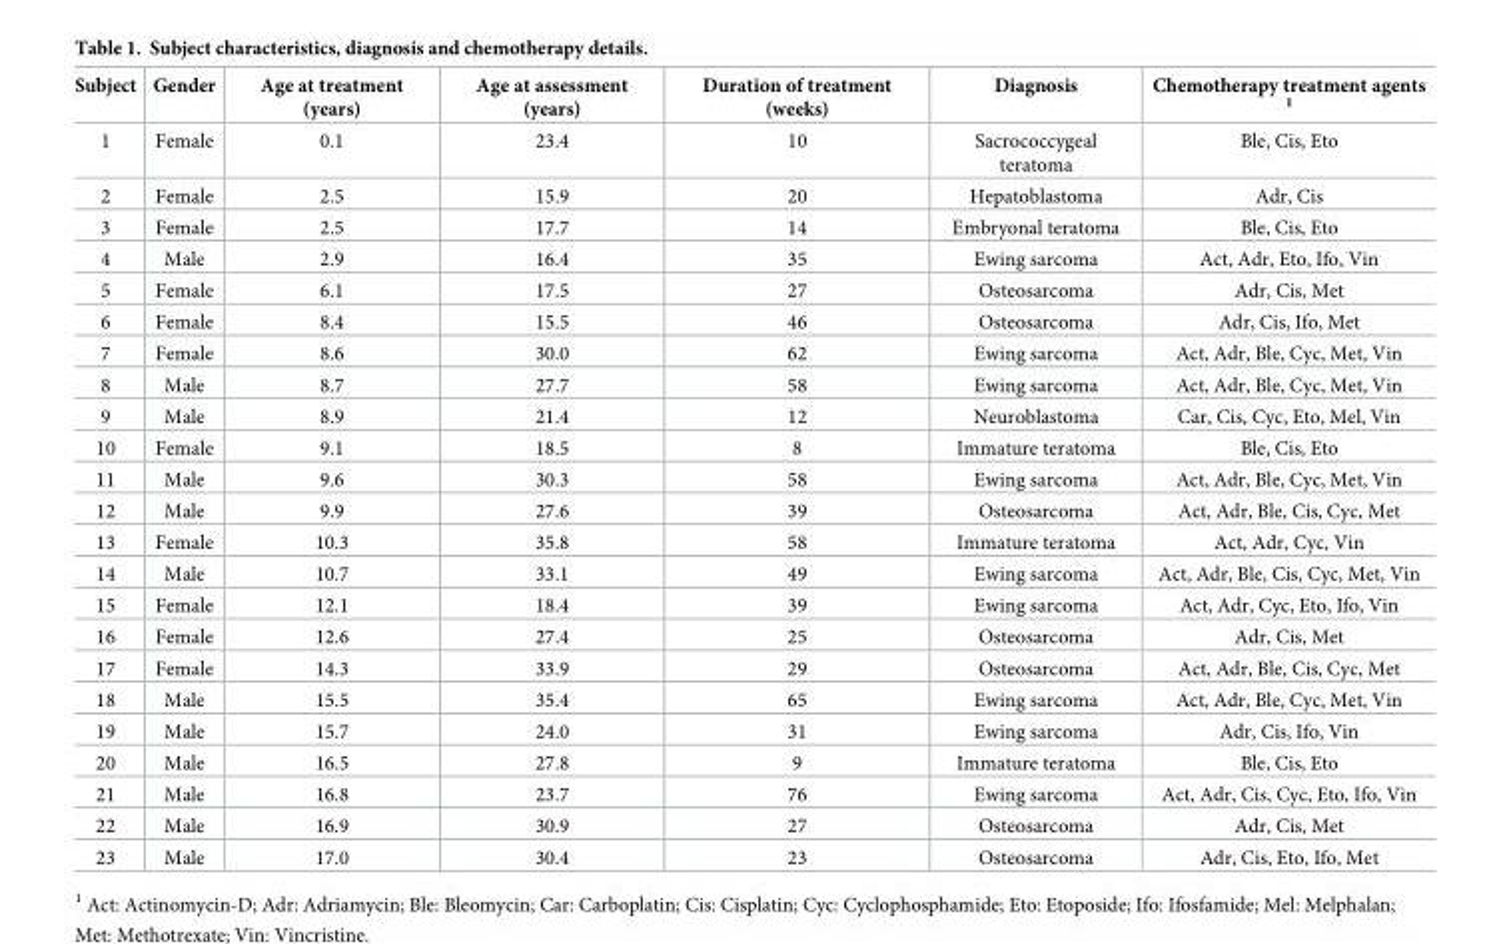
<table><thead><tr><td>Subject</td><td>Gender</td><td>Age at treatment (years)</td><td>Age at assessment (years)</td><td>Duration of treatment (weeks)</td><td>Diagnosis</td><td>Chemotherapy treatment agents <sup>1</sup></td></tr></thead><tbody><tr><td>1</td><td>Female</td><td>0.1</td><td>23.4</td><td>10</td><td>Sacrococcygeal teratoma</td><td>Ble, Cis, Eto</td></tr><tr><td>2</td><td>Female</td><td>2.5</td><td>15.9</td><td>20</td><td>Hepatoblastoma</td><td>Adr, Cis</td></tr><tr><td>3</td><td>Female</td><td>2.5</td><td>17.7</td><td>14</td><td>Embryonal teratoma</td><td>Ble, Cis, Eto</td></tr><tr><td>4</td><td>Male</td><td>2.9</td><td>16.4</td><td>35</td><td>Ewing sarcoma</td><td>Act, Adr, Eto, Ifo, Vin</td></tr><tr><td>5</td><td>Female</td><td>6.1</td><td>17.5</td><td>27</td><td>Osteosarcoma</td><td>Adr, Cis, Met</td></tr><tr><td>6</td><td>Female</td><td>8.4</td><td>15.5</td><td>46</td><td>Osteosarcoma</td><td>Adr, Cis, Ifo, Met</td></tr><tr><td>7</td><td>Female</td><td>8.6</td><td>30.0</td><td>62</td><td>Ewing sarcoma</td><td>Act, Adr, Ble, Cyc, Met, Vin</td></tr><tr><td>8</td><td>Male</td><td>8.7</td><td>27.7</td><td>58</td><td>Ewing sarcoma</td><td>Act, Adr, Ble, Cyc, Met, Vin</td></tr><tr><td>9</td><td>Male</td><td>8.9</td><td>21.4</td><td>12</td><td>Neuroblastoma</td><td>Car, Cis, Cyc, Eto, Mel, Vin</td></tr><tr><td>10</td><td>Female</td><td>9.1</td><td>18.5</td><td>8</td><td>Immature teratoma</td><td>Ble, Cis, Eto</td></tr><tr><td>11</td><td>Male</td><td>9.6</td><td>30.3</td><td>58</td><td>Ewing sarcoma</td><td>Act, Adr, Ble, Cyc, Met, Vin</td></tr><tr><td>12</td><td>Male</td><td>9.9</td><td>27.6</td><td>39</td><td>Osteosarcoma</td><td>Act, Adr, Ble, Cis, Cyc, Met</td></tr><tr><td>13</td><td>Female</td><td>10.3</td><td>35.8</td><td>58</td><td>Immature teratoma</td><td>Act, Adr, Cyc, Vin</td></tr><tr><td>14</td><td>Male</td><td>10.7</td><td>33.1</td><td>49</td><td>Ewing sarcoma</td><td>Act, Adr, Ble, Cis, Cyc, Met, Vin</td></tr><tr><td>15</td><td>Female</td><td>12.1</td><td>18.4</td><td>39</td><td>Ewing sarcoma</td><td>Act, Adr, Cyc, Eto, Ifo, Vin</td></tr><tr><td>16</td><td>Female</td><td>12.6</td><td>27.4</td><td>25</td><td>Osteosarcoma</td><td>Adr, Cis, Met</td></tr><tr><td>17</td><td>Female</td><td>14.3</td><td>33.9</td><td>29</td><td>Osteosarcoma</td><td>Act, Adr, Ble, Cis, Cyc, Met</td></tr><tr><td>18</td><td>Male</td><td>15.5</td><td>35.4</td><td>65</td><td>Ewing sarcoma</td><td>Act, Adr, Ble, Cyc, Met, Vin</td></tr><tr><td>19</td><td>Male</td><td>15.7</td><td>24.0</td><td>31</td><td>Ewing sarcoma</td><td>Adr, Cis, Ifo, Vin</td></tr><tr><td>20</td><td>Male</td><td>16.5</td><td>27.8</td><td>9</td><td>Immature teratoma</td><td>Ble, Cis, Eto</td></tr><tr><td>21</td><td>Male</td><td>16.8</td><td>23.7</td><td>76</td><td>Ewing sarcoma</td><td>Act, Adr, Cis, Cyc, Eto, Ifo, Vin</td></tr><tr><td>22</td><td>Male</td><td>16.9</td><td>30.9</td><td>27</td><td>Osteosarcoma</td><td>Adr, Cis, Met</td></tr><tr><td>23</td><td>Male</td><td>17.0</td><td>30.4</td><td>23</td><td>Osteosarcoma</td><td>Adr, Cis, Eto, Ifo, Met</td></tr></tbody></table>